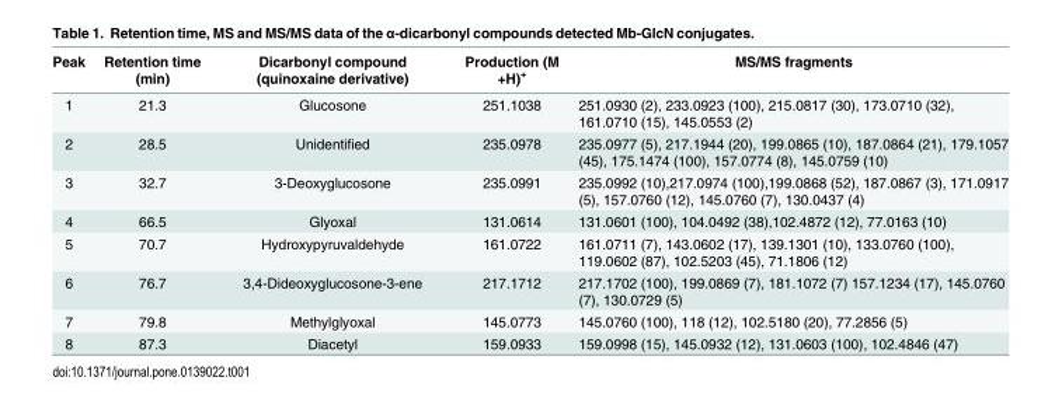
<table><thead><tr><td>Peak</td><td>Retention time (min)</td><td>Dicarbonyl compound (quinoxaine derivative)</td><td>Production (M +H)<sup>+</sup></td><td>MS/MS fragments</td></tr></thead><tbody><tr><td>1</td><td>21.3</td><td>Glucosone</td><td>251.1038</td><td>251.0930 (2), 233.0923 (100), 215.0817 (30), 173.0710 (32), 161.0710 (15), 145.0553 (2)</td></tr><tr><td>2</td><td>28.5</td><td>Unidentified</td><td>235.0978</td><td>235.0977 (5), 217.1944 (20), 199.0865 (10), 187.0864 (21), 179.1057 (45), 175.1474 (100), 157.0774 (8), 145.0759 (10)</td></tr><tr><td>3</td><td>32.7</td><td>3-Deoxyglucosone</td><td>235.0991</td><td>235.0992 (10),217.0974 (100),199.0868 (52), 187.0867 (3), 171.0917 (5), 157.0760 (12), 145.0760 (7), 130.0437 (4)</td></tr><tr><td>4</td><td>66.5</td><td>Glyoxal</td><td>131.0614</td><td>131.0601 (100), 104.0492 (38),102.4872 (12), 77.0163 (10)</td></tr><tr><td>5</td><td>70.7</td><td>Hydroxypyruvaldehyde</td><td>161.0722</td><td>161.0711 (7), 143.0602 (17), 139.1301 (10), 133.0760 (100), 119.0602 (87), 102.5203 (45), 71.1806 (12)</td></tr><tr><td>6</td><td>76.7</td><td>3,4-Dideoxyglucosone-3-ene</td><td>217.1712</td><td>217.1702 (100), 199.0869 (7), 181.1072 (7) 157.1234 (17), 145.0760 (7), 130.0729 (5)</td></tr><tr><td>7</td><td>79.8</td><td>Methylglyoxal</td><td>145.0773</td><td>145.0760 (100), 118 (12), 102.5180 (20), 77.2856 (5)</td></tr><tr><td>8</td><td>87.3</td><td>Diacetyl</td><td>159.0933</td><td>159.0998 (15), 145.0932 (12), 131.0603 (100), 102.4846 (47)</td></tr></tbody></table>